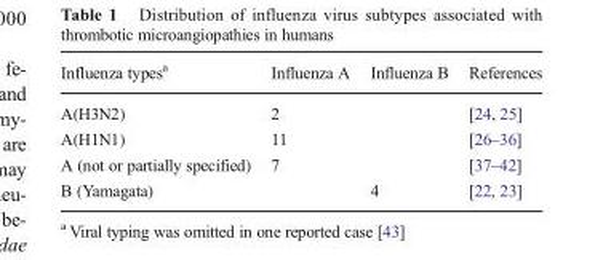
<table><thead><tr><td>Influenza types<sup>a</sup></td><td>Influenza A</td><td>Influenza B</td><td>References</td></tr></thead><tbody><tr><td>A(H3N2)</td><td>2</td><td></td><td>[24, 25]</td></tr><tr><td>A(H1N1)</td><td>11</td><td></td><td>[26–36]</td></tr><tr><td>A (not or partially specified)</td><td>7</td><td></td><td>[37–42]</td></tr><tr><td>B (Yamagata)</td><td></td><td>4</td><td>[22, 23]</td></tr></tbody></table>